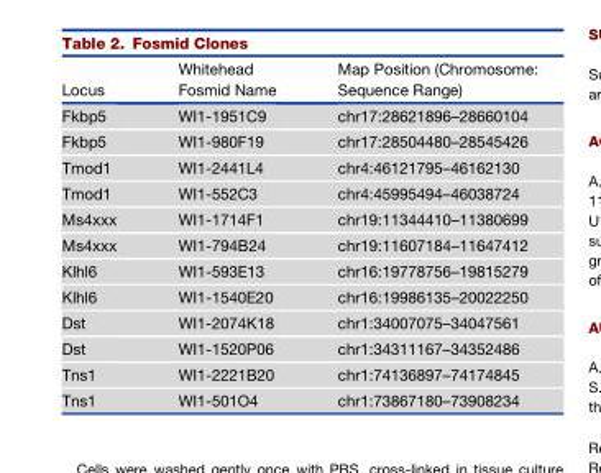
<table><thead><tr><td>Locus</td><td>Whitehead Fosmid Name</td><td>Map Position (Chromosome: Sequence Range)</td></tr></thead><tbody><tr><td>Fkbp5</td><td>WI1-1951C9</td><td>chr17:28621896–28660104</td></tr><tr><td>Fkbp5</td><td>WI1-980F19</td><td>chr17:28504480–28545426</td></tr><tr><td>Tmod1</td><td>WI1-2441L4</td><td>chr4:46121795–46162130</td></tr><tr><td>Tmod1</td><td>WI1-552C3</td><td>chr4:45995494–46038724</td></tr><tr><td>Ms4xxx</td><td>WI1-1714F1</td><td>chr19:11344410–11380699</td></tr><tr><td>Ms4xxx</td><td>WI1-794B24</td><td>chr19:11607184–11647412</td></tr><tr><td>Klhl6</td><td>WI1-593E13</td><td>chr16:19778756–19815279</td></tr><tr><td>Klhl6</td><td>WI1-1540E20</td><td>chr16:19986135–20022250</td></tr><tr><td>Dst</td><td>WI1-2074K18</td><td>chr1:34007075–34047561</td></tr><tr><td>Dst</td><td>WI1-1520P06</td><td>chr1:34311167–34352486</td></tr><tr><td>Tns1</td><td>WI1-2221B20</td><td>chr1:74136897–74174845</td></tr><tr><td>Tns1</td><td>WI1-501O4</td><td>chr1:73867180–73908234</td></tr></tbody></table>